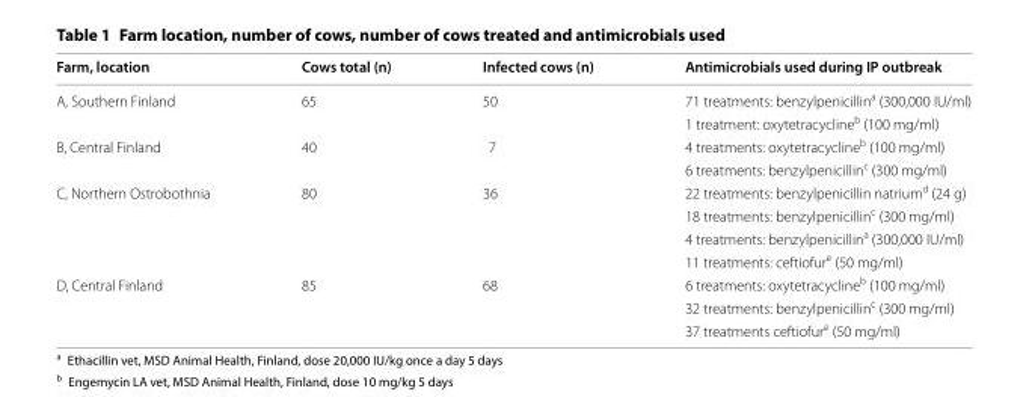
<table><thead><tr><td>Farm, location</td><td>Cows total (n)</td><td>Infected cows (n)</td><td>Antimicrobials used during IP outbreak</td></tr></thead><tbody><tr><td rowspan="2">A, Southern Finland</td><td rowspan="2">65</td><td rowspan="2">50</td><td>71 treatments: benzylpenicillin<sup>a</sup> (300,000 IU/ml)</td></tr><tr><td>1 treatment: oxytetracycline<sup>b</sup> (100 mg/ml)</td></tr><tr><td rowspan="2">B, Central Finland</td><td rowspan="2">40</td><td rowspan="2">7</td><td>4 treatments: oxytetracycline<sup>b</sup> (100 mg/ml)</td></tr><tr><td>6 treatments: benzylpenicillin<sup>c</sup> (300 mg/ml)</td></tr><tr><td rowspan="4">C, Northern Ostrobothnia</td><td rowspan="4">80</td><td rowspan="4">36</td><td>22 treatments: benzylpenicillin natrium<sup>d</sup> (24 g)</td></tr><tr><td>18 treatments: benzylpenicillin<sup>c</sup> (300 mg/ml)</td></tr><tr><td>4 treatments: benzylpenicillin<sup>a</sup> (300,000 IU/ml)</td></tr><tr><td>11 treatments: ceftiofur<sup>e</sup> (50 mg/ml)</td></tr><tr><td rowspan="3">D, Central Finland</td><td rowspan="3">85</td><td rowspan="3">68</td><td>6 treatments: oxytetracycline<sup>b</sup> (100 mg/ml)</td></tr><tr><td>32 treatments: benzylpenicillin<sup>c</sup> (300 mg/ml)</td></tr><tr><td>37 treatments ceftiofur<sup>e</sup> (50 mg/ml)</td></tr></tbody></table>